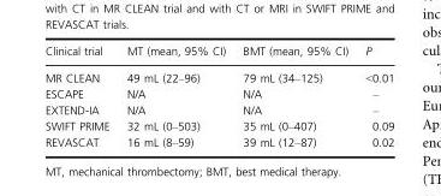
<table><thead><tr><td>Clinical trial</td><td>MT (mean, 95% CI)</td><td>BMT (mean, 95% CI)</td><td>P</td></tr></thead><tbody><tr><td>MR CLEAN</td><td>49 mL (22–96)</td><td>79 mL (34–125)</td><td>&lt;0.01</td></tr><tr><td>ESCAPE</td><td>N/A</td><td>N/A</td><td>–</td></tr><tr><td>EXTEND-IA</td><td>N/A</td><td>N/A</td><td>–</td></tr><tr><td>SWIFT PRIME</td><td>32 mL (0–503)</td><td>35 mL (0–407)</td><td>0.09</td></tr><tr><td>REVASCAT</td><td>16 mL (8–59)</td><td>39 mL (12–87)</td><td>0.02</td></tr></tbody></table>